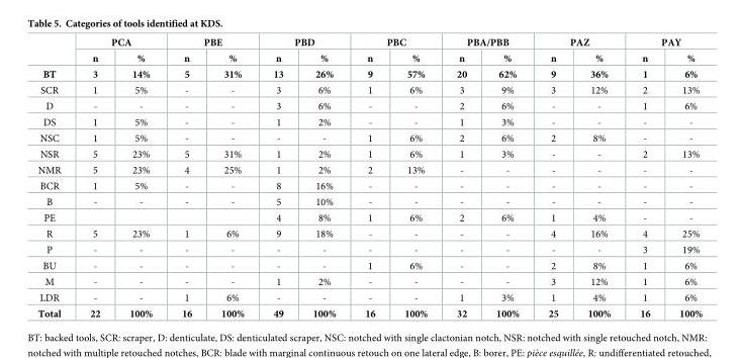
<table><thead><tr><td rowspan="2"></td><td colspan="2">PCA</td><td colspan="2">PBE</td><td colspan="2">PBD</td><td colspan="2">PBC</td><td colspan="2">PBA/PBB</td><td colspan="2">PAZ</td><td colspan="2">PAY</td></tr><tr><td>n</td><td>%</td><td>n</td><td>%</td><td>n</td><td>%</td><td>n</td><td>%</td><td>n</td><td>%</td><td>n</td><td>%</td><td>n</td><td>%</td></tr></thead><tbody><tr><td>BT</td><td>3</td><td>14%</td><td>5</td><td>31%</td><td>13</td><td>26%</td><td>9</td><td>57%</td><td>20</td><td>62%</td><td>9</td><td>36%</td><td>1</td><td>6%</td></tr><tr><td>SCR</td><td>1</td><td>5%</td><td>-</td><td>-</td><td>3</td><td>6%</td><td>1</td><td>6%</td><td>3</td><td>9%</td><td>3</td><td>12%</td><td>2</td><td>13%</td></tr><tr><td>D</td><td>-</td><td>-</td><td>-</td><td>-</td><td>3</td><td>6%</td><td>-</td><td>-</td><td>2</td><td>6%</td><td>-</td><td>-</td><td>1</td><td>6%</td></tr><tr><td>DS</td><td>1</td><td>5%</td><td>-</td><td>-</td><td>1</td><td>2%</td><td>-</td><td>-</td><td>1</td><td>3%</td><td>-</td><td>-</td><td>-</td><td>-</td></tr><tr><td>NSC</td><td>1</td><td>5%</td><td>-</td><td>-</td><td>-</td><td>-</td><td>1</td><td>6%</td><td>2</td><td>6%</td><td>2</td><td>8%</td><td>-</td><td>-</td></tr><tr><td>NSR</td><td>5</td><td>23%</td><td>5</td><td>31%</td><td>1</td><td>2%</td><td>1</td><td>6%</td><td>1</td><td>3%</td><td>-</td><td>-</td><td>2</td><td>13%</td></tr><tr><td>NMR</td><td>5</td><td>23%</td><td>4</td><td>25%</td><td>1</td><td>2%</td><td>2</td><td>13%</td><td>-</td><td>-</td><td>-</td><td>-</td><td>-</td><td>-</td></tr><tr><td>BCR</td><td>1</td><td>5%</td><td>-</td><td>-</td><td>8</td><td>16%</td><td>-</td><td>-</td><td>-</td><td>-</td><td>-</td><td>-</td><td>-</td><td>-</td></tr><tr><td>B</td><td>-</td><td>-</td><td>-</td><td>-</td><td>5</td><td>10%</td><td>-</td><td>-</td><td>-</td><td>-</td><td>-</td><td>-</td><td>-</td><td>-</td></tr><tr><td>PE</td><td></td><td></td><td></td><td></td><td>4</td><td>8%</td><td>1</td><td>6%</td><td>2</td><td>6%</td><td>1</td><td>4%</td><td>-</td><td>-</td></tr><tr><td>R</td><td>5</td><td>23%</td><td>1</td><td>6%</td><td>9</td><td>18%</td><td>-</td><td>-</td><td>-</td><td>-</td><td>4</td><td>16%</td><td>4</td><td>25%</td></tr><tr><td>P</td><td>-</td><td>-</td><td>-</td><td>-</td><td>-</td><td>-</td><td>-</td><td>-</td><td>-</td><td>-</td><td>-</td><td>-</td><td>3</td><td>19%</td></tr><tr><td>BU</td><td>-</td><td>-</td><td>-</td><td>-</td><td>-</td><td>-</td><td>1</td><td>6%</td><td>-</td><td>-</td><td>2</td><td>8%</td><td>1</td><td>6%</td></tr><tr><td>M</td><td>-</td><td>-</td><td>-</td><td>-</td><td>1</td><td>2%</td><td>-</td><td>-</td><td>-</td><td>-</td><td>3</td><td>12%</td><td>1</td><td>6%</td></tr><tr><td>LDR</td><td>-</td><td>-</td><td>1</td><td>6%</td><td>-</td><td>-</td><td>-</td><td>-</td><td>1</td><td>3%</td><td>1</td><td>4%</td><td>1</td><td>6%</td></tr><tr><td>Total</td><td>22</td><td>100%</td><td>16</td><td>100%</td><td>49</td><td>100%</td><td>16</td><td>100%</td><td>32</td><td>100%</td><td>25</td><td>100%</td><td>16</td><td>100%</td></tr></tbody></table>